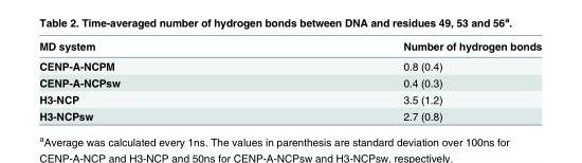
<table><thead><tr><td>MD system</td><td>Number of hydrogen bonds</td></tr></thead><tbody><tr><td>CENP-A-NCPM</td><td>0.8 (0.4)</td></tr><tr><td>CENP-A-NCPsw</td><td>0.4 (0.3)</td></tr><tr><td>H3-NCP</td><td>3.5 (1.2)</td></tr><tr><td>H3-NCPsw</td><td>2.7 (0.8)</td></tr></tbody></table>